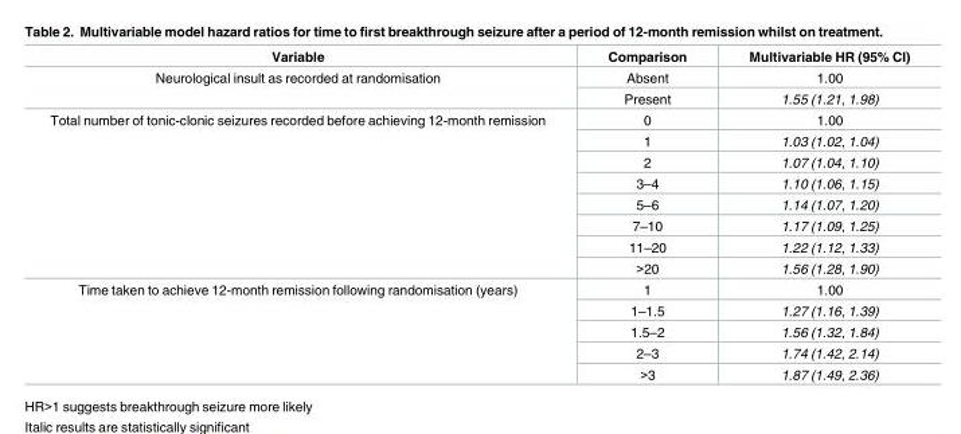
<table><thead><tr><td>Variable</td><td>Comparison</td><td>Multivariable HR (95% CI)</td></tr></thead><tbody><tr><td rowspan="2">Neurological insult as recorded at randomisation</td><td>Absent</td><td>1.00</td></tr><tr><td>Present</td><td>1.55 (1.21, 1.98)</td></tr><tr><td rowspan="8">Total number of tonic-clonic seizures recorded before achieving 12-month remission</td><td>0</td><td>1.00</td></tr><tr><td>1</td><td>1.03 (1.02, 1.04)</td></tr><tr><td>2</td><td>1.07 (1.04, 1.10)</td></tr><tr><td>3–4</td><td>1.10 (1.06, 1.15)</td></tr><tr><td>5–6</td><td>1.14 (1.07, 1.20)</td></tr><tr><td>7–10</td><td>1.17 (1.09, 1.25)</td></tr><tr><td>11–20</td><td>1.22 (1.12, 1.33)</td></tr><tr><td>&gt;20</td><td>1.56 (1.28, 1.90)</td></tr><tr><td rowspan="5">Time taken to achieve 12-month remission following randomisation (years)</td><td>1</td><td>1.00</td></tr><tr><td>1–1.5</td><td>1.27 (1.16, 1.39)</td></tr><tr><td>1.5–2</td><td>1.56 (1.32, 1.84)</td></tr><tr><td>2–3</td><td>1.74 (1.42, 2.14)</td></tr><tr><td>&gt;3</td><td>1.87 (1.49, 2.36)</td></tr></tbody></table>